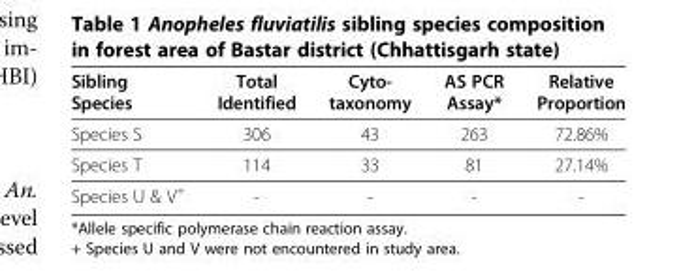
<table><thead><tr><td>Sibling Species</td><td>Total Identified</td><td>Cyto- taxonomy</td><td>AS PCR Assay*</td><td>Relative Proportion</td></tr></thead><tbody><tr><td>Species S</td><td>306</td><td>43</td><td>263</td><td>72.86%</td></tr><tr><td>Species T</td><td>114</td><td>33</td><td>81</td><td>27.14%</td></tr><tr><td>Species U &amp; V<sup>+</sup></td><td>-</td><td>-</td><td>-</td><td>-</td></tr></tbody></table>